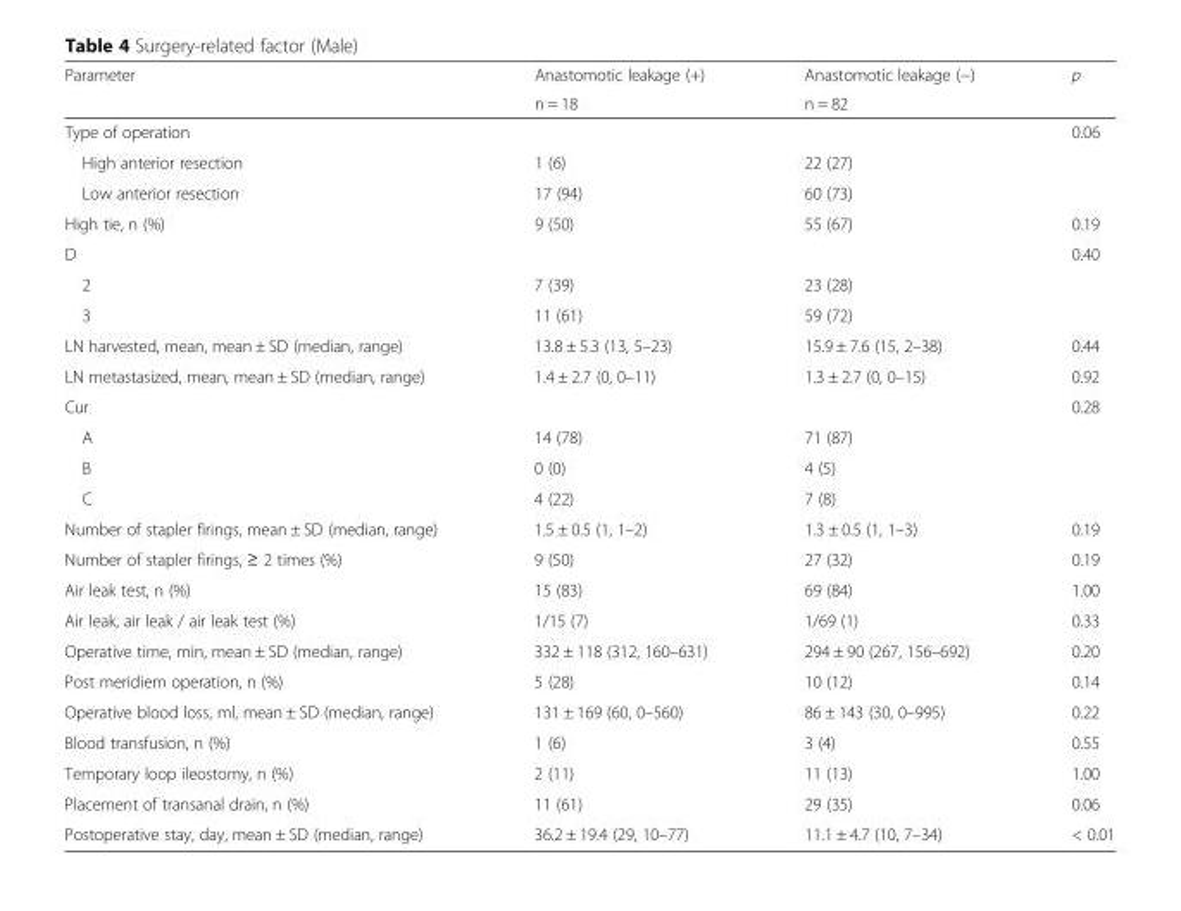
<table><thead><tr><td rowspan="2">Parameter</td><td rowspan="2">Anastomotic leakage (+) n = 18</td><td rowspan="2">Anastomotic leakage (−) n = 82</td><td rowspan="2">p</td></tr><tr></tr></thead><tbody><tr><td>Type of operation</td><td></td><td></td><td>0.06</td></tr><tr><td>High anterior resection</td><td>1 (6)</td><td>22 (27)</td><td></td></tr><tr><td>Low anterior resection</td><td>17 (94)</td><td>60 (73)</td><td></td></tr><tr><td>High tie, n (%)</td><td>9 (50)</td><td>55 (67)</td><td>0.19</td></tr><tr><td>D</td><td></td><td></td><td>0.40</td></tr><tr><td>2</td><td>7 (39)</td><td>23 (28)</td><td></td></tr><tr><td>3</td><td>11 (61)</td><td>59 (72)</td><td></td></tr><tr><td>LN harvested, mean, mean ± SD (median, range)</td><td>13.8 ± 5.3 (13, 5–23)</td><td>15.9 ± 7.6 (15, 2–38)</td><td>0.44</td></tr><tr><td>LN metastasized, mean, mean ± SD (median, range)</td><td>1.4 ± 2.7 (0, 0–11)</td><td>1.3 ± 2.7 (0, 0–15)</td><td>0.92</td></tr><tr><td>Cur</td><td></td><td></td><td>0.28</td></tr><tr><td>A</td><td>14 (78)</td><td>71 (87)</td><td></td></tr><tr><td>B</td><td>0 (0)</td><td>4 (5)</td><td></td></tr><tr><td>C</td><td>4 (22)</td><td>7 (8)</td><td></td></tr><tr><td>Number of stapler firings, mean ± SD (median, range)</td><td>1.5 ± 0.5 (1, 1–2)</td><td>1.3 ± 0.5 (1, 1–3)</td><td>0.19</td></tr><tr><td>Number of stapler firings, ≥ 2 times (%)</td><td>9 (50)</td><td>27 (32)</td><td>0.19</td></tr><tr><td>Air leak test, n (%)</td><td>15 (83)</td><td>69 (84)</td><td>1.00</td></tr><tr><td>Air leak, air leak / air leak test (%)</td><td>1/15 (7)</td><td>1/69 (1)</td><td>0.33</td></tr><tr><td>Operative time, min, mean ± SD (median, range)</td><td>332 ± 118 (312, 160–631)</td><td>294 ± 90 (267, 156–692)</td><td>0.20</td></tr><tr><td>Post meridiem operation, n (%)</td><td>5 (28)</td><td>10 (12)</td><td>0.14</td></tr><tr><td>Operative blood loss, ml, mean ± SD (median, range)</td><td>131 ± 169 (60, 0–560)</td><td>86 ± 143 (30, 0–995)</td><td>0.22</td></tr><tr><td>Blood transfusion, n (%)</td><td>1 (6)</td><td>3 (4)</td><td>0.55</td></tr><tr><td>Temporary loop ileostomy, n (%)</td><td>2 (11)</td><td>11 (13)</td><td>1.00</td></tr><tr><td>Placement of transanal drain, n (%)</td><td>11 (61)</td><td>29 (35)</td><td>0.06</td></tr><tr><td>Postoperative stay, day, mean ± SD (median, range)</td><td>36.2 ± 19.4 (29, 10–77)</td><td>11.1 ± 4.7 (10, 7–34)</td><td>&lt; 0.01</td></tr></tbody></table>